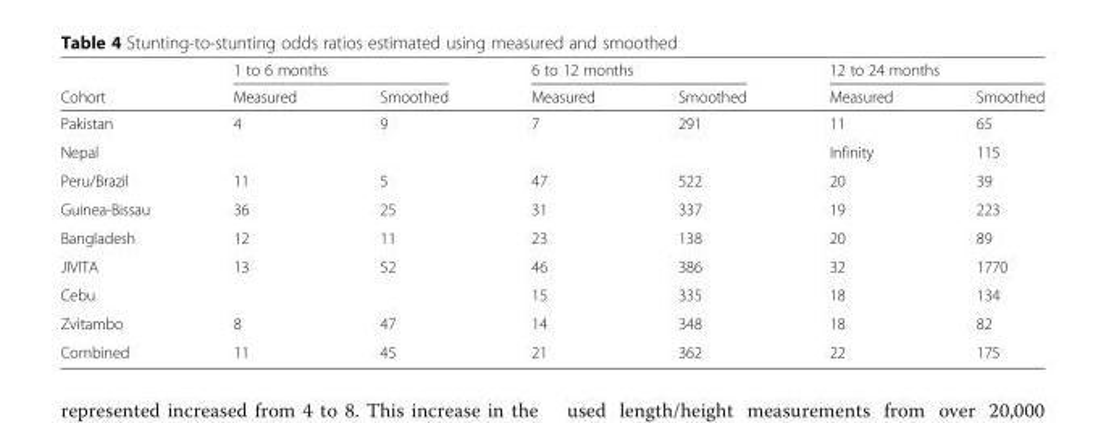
<table><thead><tr><td rowspan="2">Cohort</td><td colspan="2">1 to 6 months</td><td colspan="2">6 to 12 months</td><td colspan="2">12 to 24 months</td></tr><tr><td>Measured</td><td>Smoothed</td><td>Measured</td><td>Smoothed</td><td>Measured</td><td>Smoothed</td></tr></thead><tbody><tr><td>Pakistan</td><td>4</td><td>9</td><td>7</td><td>291</td><td>11</td><td>65</td></tr><tr><td>Nepal</td><td></td><td></td><td></td><td></td><td>Infinity</td><td>115</td></tr><tr><td>Peru/Brazil</td><td>11</td><td>5</td><td>47</td><td>522</td><td>20</td><td>39</td></tr><tr><td>Guinea-Bissau</td><td>36</td><td>25</td><td>31</td><td>337</td><td>19</td><td>223</td></tr><tr><td>Bangladesh</td><td>12</td><td>11</td><td>23</td><td>138</td><td>20</td><td>89</td></tr><tr><td>JIVITA</td><td>13</td><td>52</td><td>46</td><td>386</td><td>32</td><td>1770</td></tr><tr><td>Cebu</td><td></td><td></td><td>15</td><td>335</td><td>18</td><td>134</td></tr><tr><td>Zvitambo</td><td>8</td><td>47</td><td>14</td><td>348</td><td>18</td><td>82</td></tr><tr><td>Combined</td><td>11</td><td>45</td><td>21</td><td>362</td><td>22</td><td>175</td></tr></tbody></table>